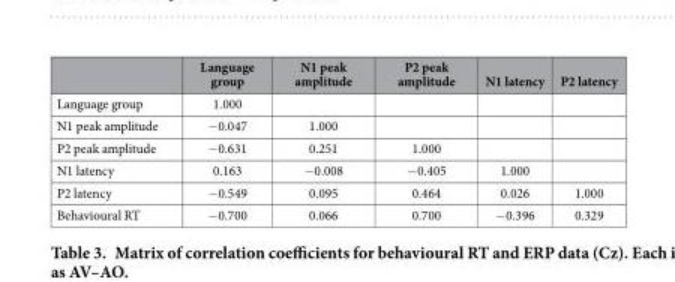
<table><thead><tr><td></td><td>Language group</td><td>N1 peak amplitude</td><td>P2 peak amplitude</td><td>N1 latency</td><td>P2 latency</td></tr></thead><tbody><tr><td>Language group</td><td>1.000</td><td></td><td></td><td></td><td></td></tr><tr><td>N1 peak amplitude</td><td>− 0.047</td><td>1.000</td><td></td><td></td><td></td></tr><tr><td>P2 peak amplitude</td><td>− 0.631</td><td>0.251</td><td>1.000</td><td></td><td></td></tr><tr><td>N1 latency</td><td>0.163</td><td>− 0.008</td><td>− 0.405</td><td>1.000</td><td></td></tr><tr><td>P2 latency</td><td>− 0.549</td><td>0.095</td><td>0.464</td><td>0.026</td><td>1.000</td></tr><tr><td>Behavioural RT</td><td>− 0.700</td><td>0.066</td><td>0.700</td><td>− 0.396</td><td>0.329</td></tr></tbody></table>